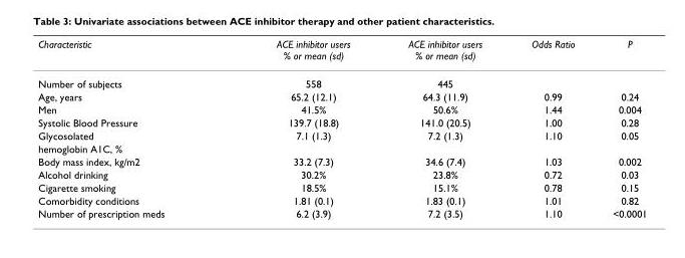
<table><thead><tr><td>Characteristic</td><td>ACE inhibitor users % or mean (sd)</td><td>ACE inhibitor users % or mean (sd)</td><td>Odds Ratio</td><td>P</td></tr></thead><tbody><tr><td>Number of subjects</td><td>558</td><td>445</td><td></td><td></td></tr><tr><td>Age, years</td><td>65.2 (12.1)</td><td>64.3 (11.9)</td><td>0.99</td><td>0.24</td></tr><tr><td>Men</td><td>41.5%</td><td>50.6%</td><td>1.44</td><td>0.004</td></tr><tr><td>Systolic Blood Pressure</td><td>139.7 (18.8)</td><td>141.0 (20.5)</td><td>1.00</td><td>0.28</td></tr><tr><td>Glycosolated</td><td>7.1 (1.3)</td><td>7.2 (1.3)</td><td>1.10</td><td>0.05</td></tr><tr><td colspan="5">hemoglobin A1C, %</td></tr><tr><td>Body mass index, kg/m2</td><td>33.2 (7.3)</td><td>34.6 (7.4)</td><td>1.03</td><td>0.002</td></tr><tr><td>Alcohol drinking</td><td>30.2%</td><td>23.8%</td><td>0.72</td><td>0.03</td></tr><tr><td>Cigarette smoking</td><td>18.5%</td><td>15.1%</td><td>0.78</td><td>0.15</td></tr><tr><td>Comorbidity conditions</td><td>1.81 (0.1)</td><td>1.83 (0.1)</td><td>1.01</td><td>0.82</td></tr><tr><td>Number of prescription meds</td><td>6.2 (3.9)</td><td>7.2 (3.5)</td><td>1.10</td><td>&lt;0.0001</td></tr></tbody></table>